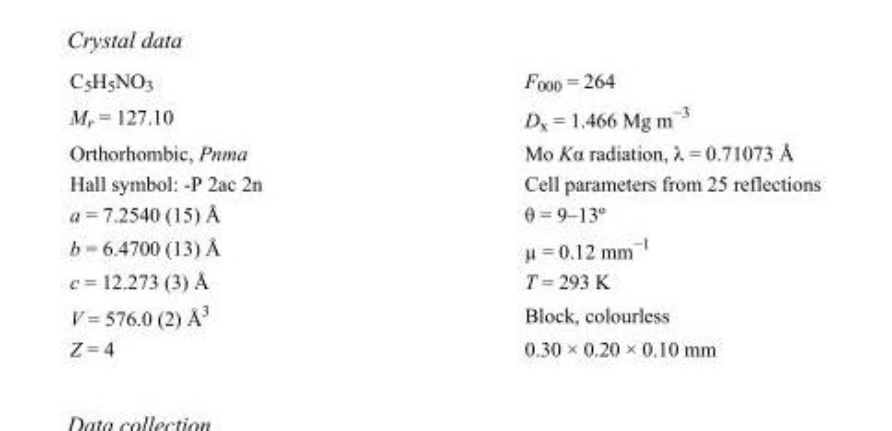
<table><tbody><tr><td>C<sub>5</sub>H<sub>5</sub>NO<sub>3</sub></td><td>F000 = 264</td></tr><tr><td>M<sub>r</sub> = 127.10</td><td>D<sub>x</sub> = 1.466 Mg m<sup>−3</sup></td></tr><tr><td>Orthorhombic, Pnma</td><td>Mo Kα radiation, λ = 0.71073 Å</td></tr><tr><td>Hall symbol: -P 2ac 2n</td><td>Cell parameters from 25 reflections</td></tr><tr><td>a = 7.2540 (15) Å</td><td>θ = 9–13º</td></tr><tr><td>b = 6.4700 (13) Å</td><td>µ = 0.12 mm<sup>−1</sup></td></tr><tr><td>c = 12.273 (3) Å</td><td>T = 293 K</td></tr><tr><td>V = 576.0 (2) Å<sup>3</sup></td><td>Block, colourless</td></tr><tr><td>Z = 4</td><td>0.30 × 0.20 × 0.10 mm</td></tr></tbody></table>